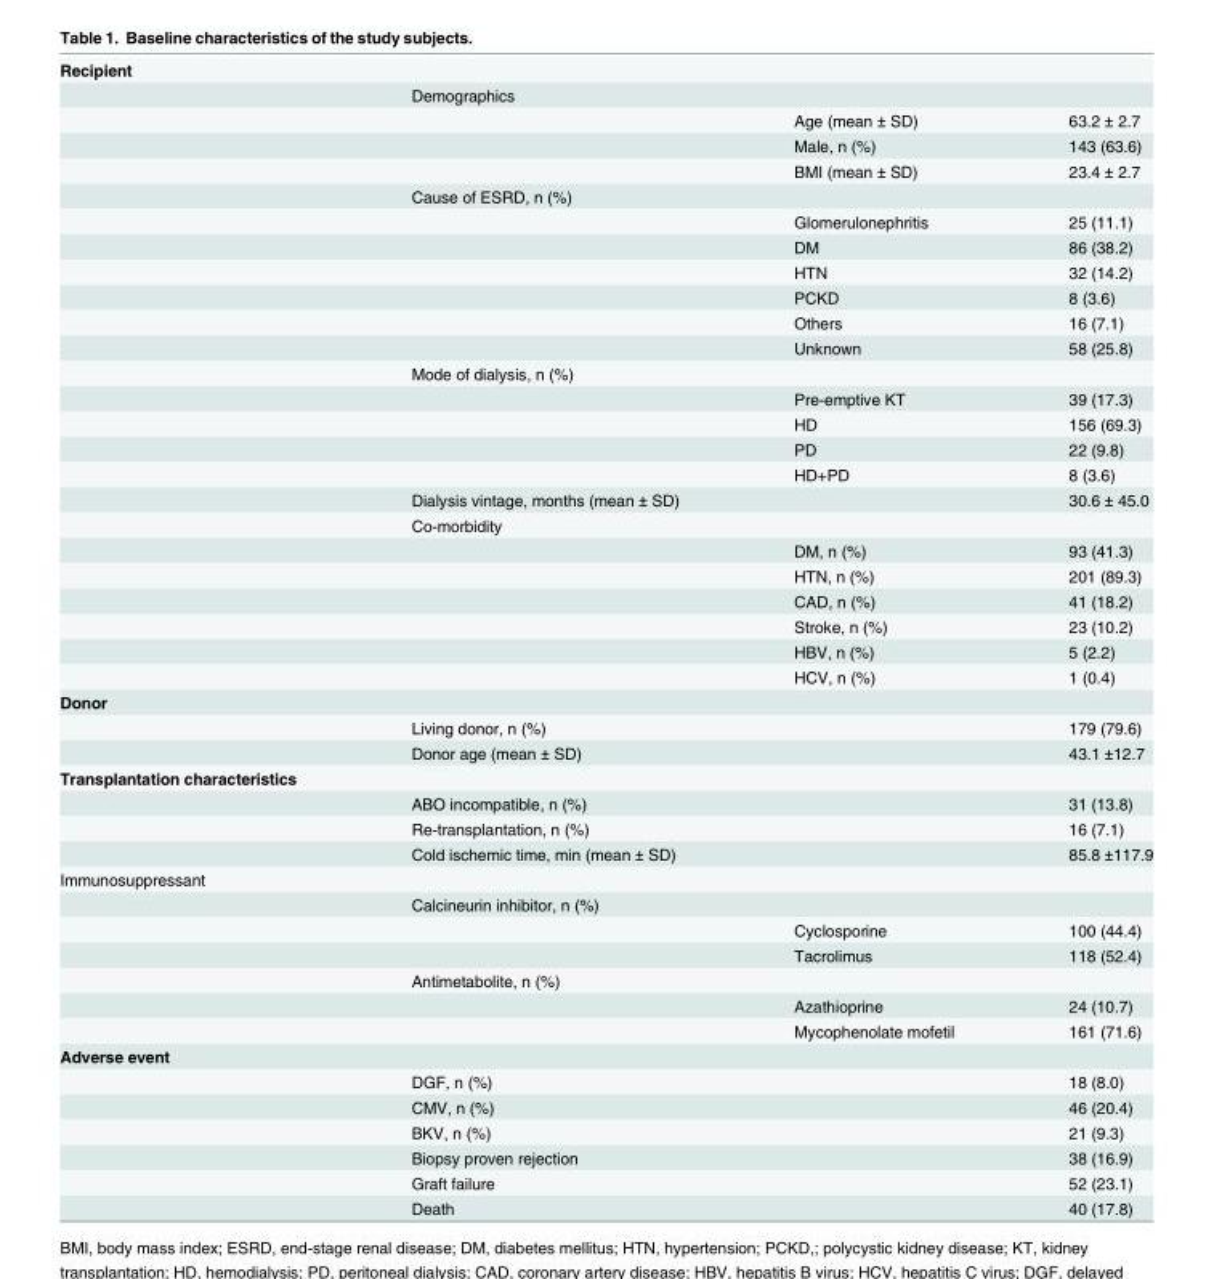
<table><tbody><tr><td colspan="4">Recipient</td></tr><tr><td></td><td>Demographics</td><td></td><td></td></tr><tr><td></td><td></td><td>Age (mean ± SD)</td><td>63.2 ± 2.7</td></tr><tr><td></td><td></td><td>Male, n (%)</td><td>143 (63.6)</td></tr><tr><td></td><td></td><td>BMI (mean ± SD)</td><td>23.4 ± 2.7</td></tr><tr><td></td><td>Cause of ESRD, n (%)</td><td></td><td></td></tr><tr><td></td><td></td><td>Glomerulonephritis</td><td>25 (11.1)</td></tr><tr><td></td><td></td><td>DM</td><td>86 (38.2)</td></tr><tr><td></td><td></td><td>HTN</td><td>32 (14.2)</td></tr><tr><td></td><td></td><td>PCKD</td><td>8 (3.6)</td></tr><tr><td></td><td></td><td>Others</td><td>16 (7.1)</td></tr><tr><td></td><td></td><td>Unknown</td><td>58 (25.8)</td></tr><tr><td></td><td>Mode of dialysis, n (%)</td><td></td><td></td></tr><tr><td></td><td></td><td>Pre-emptive KT</td><td>39 (17.3)</td></tr><tr><td></td><td></td><td>HD</td><td>156 (69.3)</td></tr><tr><td></td><td></td><td>PD</td><td>22 (9.8)</td></tr><tr><td></td><td></td><td>HD+PD</td><td>8 (3.6)</td></tr><tr><td></td><td>Dialysis vintage, months (mean ± SD)</td><td></td><td>30.6 ± 45.0</td></tr><tr><td></td><td>Co-morbidity</td><td></td><td></td></tr><tr><td></td><td></td><td>DM, n (%)</td><td>93 (41.3)</td></tr><tr><td></td><td></td><td>HTN, n (%)</td><td>201 (89.3)</td></tr><tr><td></td><td></td><td>CAD, n (%)</td><td>41 (18.2)</td></tr><tr><td></td><td></td><td>Stroke, n (%)</td><td>23 (10.2)</td></tr><tr><td></td><td></td><td>HBV, n (%)</td><td>5 (2.2)</td></tr><tr><td></td><td></td><td>HCV, n (%)</td><td>1 (0.4)</td></tr><tr><td colspan="4">Donor</td></tr><tr><td></td><td>Living donor, n (%)</td><td></td><td>179 (79.6)</td></tr><tr><td></td><td>Donor age (mean ± SD)</td><td></td><td>43.1 ±12.7</td></tr><tr><td colspan="4">Transplantation characteristics</td></tr><tr><td></td><td>ABO incompatible, n (%)</td><td></td><td>31 (13.8)</td></tr><tr><td></td><td>Re-transplantation, n (%)</td><td></td><td>16 (7.1)</td></tr><tr><td></td><td>Cold ischemic time, min (mean ± SD)</td><td></td><td>85.8 ±117.9</td></tr><tr><td colspan="4">Immunosuppressant</td></tr><tr><td></td><td>Calcineurin inhibitor, n (%)</td><td></td><td></td></tr><tr><td></td><td></td><td>Cyclosporine</td><td>100 (44.4)</td></tr><tr><td></td><td></td><td>Tacrolimus</td><td>118 (52.4)</td></tr><tr><td></td><td>Antimetabolite, n (%)</td><td></td><td></td></tr><tr><td></td><td></td><td>Azathioprine</td><td>24 (10.7)</td></tr><tr><td></td><td></td><td>Mycophenolate mofetil</td><td>161 (71.6)</td></tr><tr><td colspan="4">Adverse event</td></tr><tr><td></td><td>DGF, n (%)</td><td></td><td>18 (8.0)</td></tr><tr><td></td><td>CMV, n (%)</td><td></td><td>46 (20.4)</td></tr><tr><td></td><td>BKV, n (%)</td><td></td><td>21 (9.3)</td></tr><tr><td></td><td>Biopsy proven rejection</td><td></td><td>38 (16.9)</td></tr><tr><td></td><td>Graft failure</td><td></td><td>52 (23.1)</td></tr><tr><td></td><td>Death</td><td></td><td>40 (17.8)</td></tr></tbody></table>